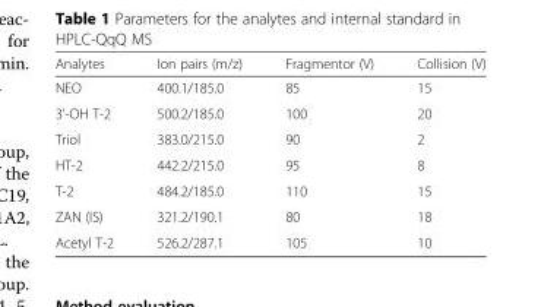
<table><thead><tr><td>Analytes</td><td>Ion pairs (m/z)</td><td>Fragmentor (V)</td><td>Collision (V)</td></tr></thead><tbody><tr><td>NEO</td><td>400.1/185.0</td><td>85</td><td>15</td></tr><tr><td>3&#x27;-OH T-2</td><td>500.2/185.0</td><td>100</td><td>20</td></tr><tr><td>Triol</td><td>383.0/215.0</td><td>90</td><td>2</td></tr><tr><td>HT-2</td><td>442.2/215.0</td><td>95</td><td>8</td></tr><tr><td>T-2</td><td>484.2/185.0</td><td>110</td><td>15</td></tr><tr><td>ZAN (IS)</td><td>321.2/190.1</td><td>80</td><td>18</td></tr><tr><td>Acetyl T-2</td><td>526.2/287.1</td><td>105</td><td>10</td></tr></tbody></table>